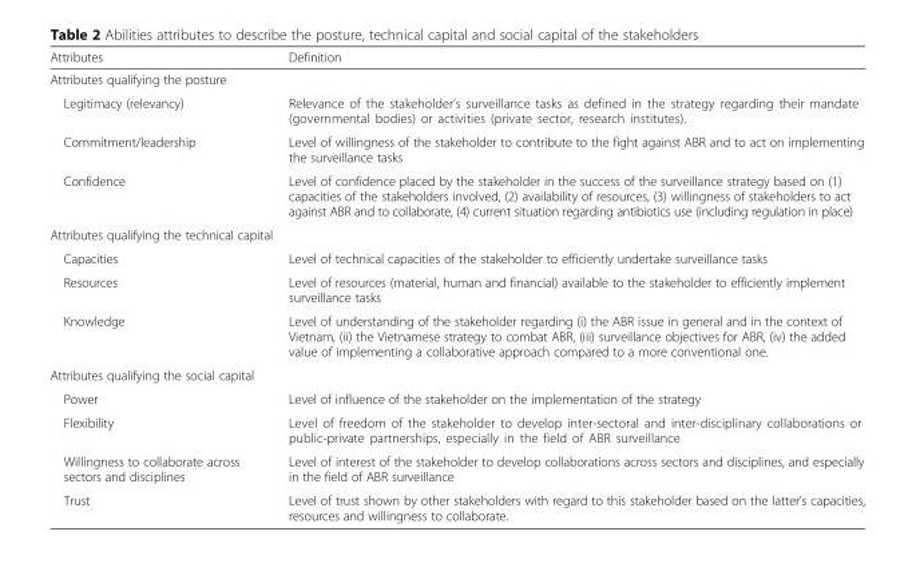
<table><thead><tr><td>Attributes</td><td>Definition</td></tr></thead><tbody><tr><td colspan="2">Attributes qualifying the posture</td></tr><tr><td>Legitimacy (relevancy)</td><td>Relevance of the stakeholder’s surveillance tasks as defined in the strategy regarding their mandate (governmental bodies) or activities (private sector, research institutes).</td></tr><tr><td>Commitment/leadership</td><td>Level of willingness of the stakeholder to contribute to the fight against ABR and to act on implementing the surveillance tasks</td></tr><tr><td>Confidence</td><td>Level of confidence placed by the stakeholder in the success of the surveillance strategy based on (1) capacities of the stakeholders involved, (2) availability of resources, (3) willingness of stakeholders to act against ABR and to collaborate, (4) current situation regarding antibiotics use (including regulation in place)</td></tr><tr><td colspan="2">Attributes qualifying the technical capital</td></tr><tr><td>Capacities</td><td>Level of technical capacities of the stakeholder to efficiently undertake surveillance tasks</td></tr><tr><td>Resources</td><td>Level of resources (material, human and financial) available to the stakeholder to efficiently implement surveillance tasks</td></tr><tr><td>Knowledge</td><td>Level of understanding of the stakeholder regarding (i) the ABR issue in general and in the context of Vietnam, (ii) the Vietnamese strategy to combat ABR, (iii) surveillance objectives for ABR, (iv) the added value of implementing a collaborative approach compared to a more conventional one.</td></tr><tr><td colspan="2">Attributes qualifying the social capital</td></tr><tr><td>Power</td><td>Level of influence of the stakeholder on the implementation of the strategy</td></tr><tr><td>Flexibility</td><td>Level of freedom of the stakeholder to develop inter-sectoral and inter-disciplinary collaborations or public-private partnerships, especially in the field of ABR surveillance</td></tr><tr><td>Willingness to collaborate across sectors and disciplines</td><td>Level of interest of the stakeholder to develop collaborations across sectors and disciplines, and especially in the field of ABR surveillance</td></tr><tr><td>Trust</td><td>Level of trust shown by other stakeholders with regard to this stakeholder based on the latter’s capacities, resources and willingness to collaborate.</td></tr></tbody></table>